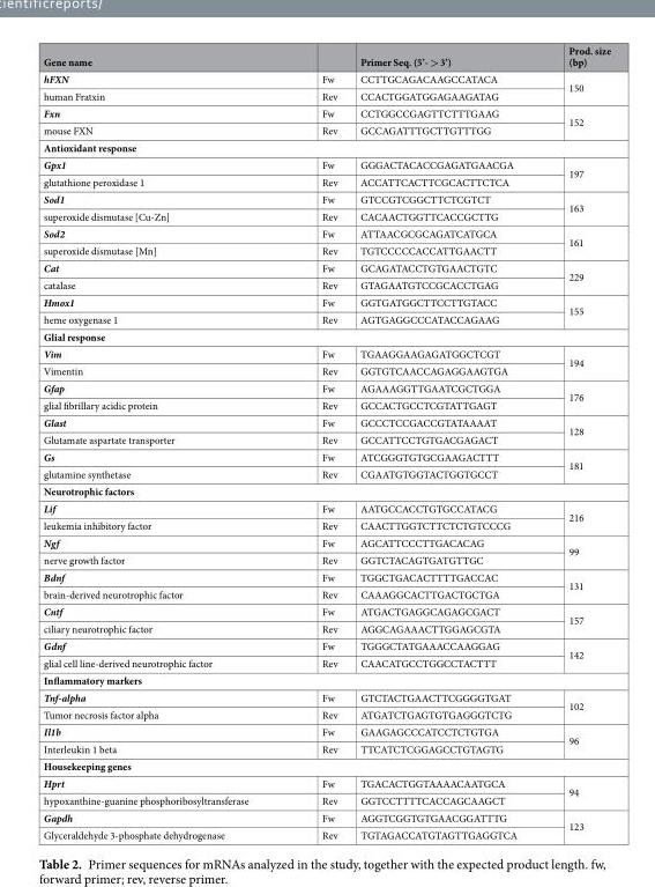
<table><thead><tr><td>Gene name</td><td></td><td>Primer Seq. (5’- &gt; 3’)</td><td>Prod. size (bp)</td></tr></thead><tbody><tr><td>hFXN</td><td>Fw</td><td>CCTTGCAGACAAGCCATACA</td><td rowspan="2">150</td></tr><tr><td>human Fratxin</td><td>Rev</td><td>CCACTGGATGGAGAAGATAG</td></tr><tr><td>Fxn</td><td>Fw</td><td>CCTGGCCGAGTTCTTTGAAG</td><td rowspan="2">152</td></tr><tr><td>mouse FXN</td><td>Rev</td><td>GCCAGATTTGCTTGTTTGG</td></tr><tr><td colspan="4">Antioxidant response</td></tr><tr><td>Gpx1</td><td>Fw</td><td>GGGACTACACCGAGATGAACGA</td><td rowspan="2">197</td></tr><tr><td>glutathione peroxidase 1</td><td>Rev</td><td>ACCATTCACTTCGCACTTCTCA</td></tr><tr><td>Sod1</td><td>Fw</td><td>GTCCGTCGGCTTCTCGTCT</td><td rowspan="2">163</td></tr><tr><td>superoxide dismutase [Cu-Zn]</td><td>Rev</td><td>CACAACTGGTTCACCGCTTG</td></tr><tr><td>Sod2</td><td>Fw</td><td>ATTAACGCGCAGATCATGCA</td><td rowspan="2">161</td></tr><tr><td>superoxide dismutase [Mn]</td><td>Rev</td><td>TGTCCCCCACCATTGAACTT</td></tr><tr><td>Cat</td><td>Fw</td><td>GCAGATACCTGTGAACTGTC</td><td rowspan="2">229</td></tr><tr><td>catalase</td><td>Rev</td><td>GTAGAATGTCCGCACCTGAG</td></tr><tr><td>Hmox1</td><td>Fw</td><td>GGTGATGGCTTCCTTGTACC</td><td rowspan="2">155</td></tr><tr><td>heme oxygenase 1</td><td>Rev</td><td>AGTGAGGCCCATACCAGAAG</td></tr><tr><td colspan="4">Glial response</td></tr><tr><td>Vim</td><td>Fw</td><td>TGAAGGAAGAGATGGCTCGT</td><td rowspan="2">194</td></tr><tr><td>Vimentin</td><td>Rev</td><td>GGTGTCAACCAGAGGAAGTGA</td></tr><tr><td>Gfap</td><td>Fw</td><td>AGAAAGGTTGAATCGCTGGA</td><td rowspan="2">176</td></tr><tr><td>glial fibrillary acidic protein</td><td>Rev</td><td>GCCACTGCCTCGTATTGAGT</td></tr><tr><td>Glast</td><td>Fw</td><td>GCCCTCCGACCGTATAAAAT</td><td rowspan="2">128</td></tr><tr><td>Glutamate aspartate transporter</td><td>Rev</td><td>GCCATTCCTGTGACGAGACT</td></tr><tr><td>Gs</td><td>Fw</td><td>ATCGGGTGTGCGAAGACTTT</td><td rowspan="2">181</td></tr><tr><td>glutamine synthetase</td><td>Rev</td><td>CGAATGTGGTACTGGTGCCT</td></tr><tr><td colspan="4">Neurotrophic factors</td></tr><tr><td>Lif</td><td>Fw</td><td>AATGCCACCTGTGCCATACG</td><td rowspan="2">216</td></tr><tr><td>leukemia inhibitory factor</td><td>Rev</td><td>CAACTTGGTCTTCTCTGTCCCG</td></tr><tr><td>Ngf</td><td>Fw</td><td>AGCATTCCCTTGACACAG</td><td rowspan="2">99</td></tr><tr><td>nerve growth factor</td><td>Rev</td><td>GGTCTACAGTGATGTTGC</td></tr><tr><td>Bdnf</td><td>Fw</td><td>TGGCTGACACTTTTGACCAC</td><td rowspan="2">131</td></tr><tr><td>brain-derived neurotrophic factor</td><td>Rev</td><td>CAAAGGCACTTGACTGCTGA</td></tr><tr><td>Cntf</td><td>Fw</td><td>ATGACTGAGGCAGAGCGACT</td><td rowspan="2">157</td></tr><tr><td>ciliary neurotrophic factor</td><td>Rev</td><td>AGGCAGAAACTTGGAGCGTA</td></tr><tr><td>Gdnf</td><td>Fw</td><td>TGGGCTATGAAACCAAGGAG</td><td rowspan="2">142</td></tr><tr><td>glial cell line-derived neurotrophic factor</td><td>Rev</td><td>CAACATGCCTGGCCTACTTT</td></tr><tr><td colspan="4">Inflammatory markers</td></tr><tr><td>Tnf-alpha</td><td>Fw</td><td>GTCTACTGAACTTCGGGGTGAT</td><td rowspan="2">102</td></tr><tr><td>Tumor necrosis factor alpha</td><td>Rev</td><td>ATGATCTGAGTGTGAGGGTCTG</td></tr><tr><td>Il1b</td><td>Fw</td><td>GAAGAGCCCATCCTCTGTGA</td><td rowspan="2">96</td></tr><tr><td>Interleukin 1 beta</td><td>Rev</td><td>TTCATCTCGGAGCCTGTAGTG</td></tr><tr><td colspan="4">Housekeeping genes</td></tr><tr><td>Hprt</td><td>Fw</td><td>TGACACTGGTAAAACAATGCA</td><td rowspan="2">94</td></tr><tr><td>hypoxanthine-guanine phosphoribosyltransferase</td><td>Rev</td><td>GGTCCTTTTCACCAGCAAGCT</td></tr><tr><td>Gapdh</td><td>Fw</td><td>AGGTCGGTGTGAACGGATTTG</td><td rowspan="2">123</td></tr><tr><td>Glyceraldehyde 3-phosphate dehydrogenase</td><td>Rev</td><td>TGTAGACCATGTAGTTGAGGTCA</td></tr></tbody></table>